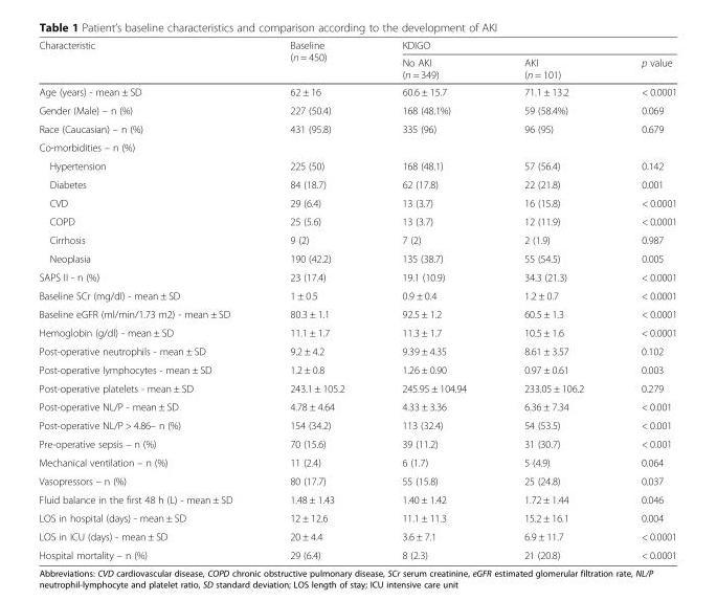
<table><thead><tr><td rowspan="2">Characteristic</td><td rowspan="2">Baseline (n = 450)</td><td colspan="3">KDIGO</td></tr><tr><td>No AKI (n = 349)</td><td>AKI (n = 101)</td><td>p value</td></tr></thead><tbody><tr><td>Age (years) - mean ± SD</td><td>62 ± 16</td><td>60.6 ± 15.7</td><td>71.1 ± 13.2</td><td>&lt; 0.0001</td></tr><tr><td>Gender (Male) – n (%)</td><td>227 (50.4)</td><td>168 (48.1%)</td><td>59 (58.4%)</td><td>0.069</td></tr><tr><td>Race (Caucasian) – n (%)</td><td>431 (95.8)</td><td>335 (96)</td><td>96 (95)</td><td>0.679</td></tr><tr><td colspan="5">Co-morbidities – n (%)</td></tr><tr><td>Hypertension</td><td>225 (50)</td><td>168 (48.1)</td><td>57 (56.4)</td><td>0.142</td></tr><tr><td>Diabetes</td><td>84 (18.7)</td><td>62 (17.8)</td><td>22 (21.8)</td><td>0.001</td></tr><tr><td>CVD</td><td>29 (6.4)</td><td>13 (3.7)</td><td>16 (15.8)</td><td>&lt; 0.0001</td></tr><tr><td>COPD</td><td>25 (5.6)</td><td>13 (3.7)</td><td>12 (11.9)</td><td>&lt; 0.0001</td></tr><tr><td>Cirrhosis</td><td>9 (2)</td><td>7 (2)</td><td>2 (1.9)</td><td>0.987</td></tr><tr><td>Neoplasia</td><td>190 (42.2)</td><td>135 (38.7)</td><td>55 (54.5)</td><td>0.005</td></tr><tr><td>SAPS II - n (%)</td><td>23 (17.4)</td><td>19.1 (10.9)</td><td>34.3 (21.3)</td><td>&lt; 0.0001</td></tr><tr><td>Baseline SCr (mg/dl) - mean ± SD</td><td>1 ± 0.5</td><td>0.9 ± 0.4</td><td>1.2 ± 0.7</td><td>&lt; 0.0001</td></tr><tr><td>Baseline eGFR (ml/min/1.73 m2) - mean ± SD</td><td>80.3 ± 1.1</td><td>92.5 ± 1.2</td><td>60.5 ± 1.3</td><td>&lt; 0.0001</td></tr><tr><td>Hemoglobin (g/dl) - mean ± SD</td><td>11.1 ± 1.7</td><td>11.3 ± 1.7</td><td>10.5 ± 1.6</td><td>&lt; 0.0001</td></tr><tr><td>Post-operative neutrophils - mean ± SD</td><td>9.2 ± 4.2</td><td>9.39 ± 4.35</td><td>8.61 ± 3.57</td><td>0.102</td></tr><tr><td>Post-operative lymphocytes - mean ± SD</td><td>1.2 ± 0.8</td><td>1.26 ± 0.90</td><td>0.97 ± 0.61</td><td>0.003</td></tr><tr><td>Post-operative platelets - mean ± SD</td><td>243.1 ± 105.2</td><td>245.95 ± 104.94</td><td>233.05 ± 106.2</td><td>0.279</td></tr><tr><td>Post-operative NL/P - mean ± SD</td><td>4.78 ± 4.64</td><td>4.33 ± 3.36</td><td>6.36 ± 7.34</td><td>&lt; 0.001</td></tr><tr><td>Post-operative NL/P &gt; 4.86– n (%)</td><td>154 (34.2)</td><td>113 (32.4)</td><td>54 (53.5)</td><td>&lt; 0.001</td></tr><tr><td>Pre-operative sepsis – n (%)</td><td>70 (15.6)</td><td>39 (11.2)</td><td>31 (30.7)</td><td>&lt; 0.001</td></tr><tr><td>Mechanical ventilation – n (%)</td><td>11 (2.4)</td><td>6 (1.7)</td><td>5 (4.9)</td><td>0.064</td></tr><tr><td>Vasopressors – n (%)</td><td>80 (17.7)</td><td>55 (15.8)</td><td>25 (24.8)</td><td>0.037</td></tr><tr><td>Fluid balance in the first 48 h (L) - mean ± SD</td><td>1.48 ± 1.43</td><td>1.40 ± 1.42</td><td>1.72 ± 1.44</td><td>0.046</td></tr><tr><td>LOS in hospital (days) - mean ± SD</td><td>12 ± 12.6</td><td>11.1 ± 11.3</td><td>15.2 ± 16.1</td><td>0.004</td></tr><tr><td>LOS in ICU (days) - mean ± SD</td><td>20 ± 4.4</td><td>3.6 ± 7.1</td><td>6.9 ± 11.7</td><td>&lt; 0.0001</td></tr><tr><td>Hospital mortality – n (%)</td><td>29 (6.4)</td><td>8 (2.3)</td><td>21 (20.8)</td><td>&lt; 0.0001</td></tr></tbody></table>